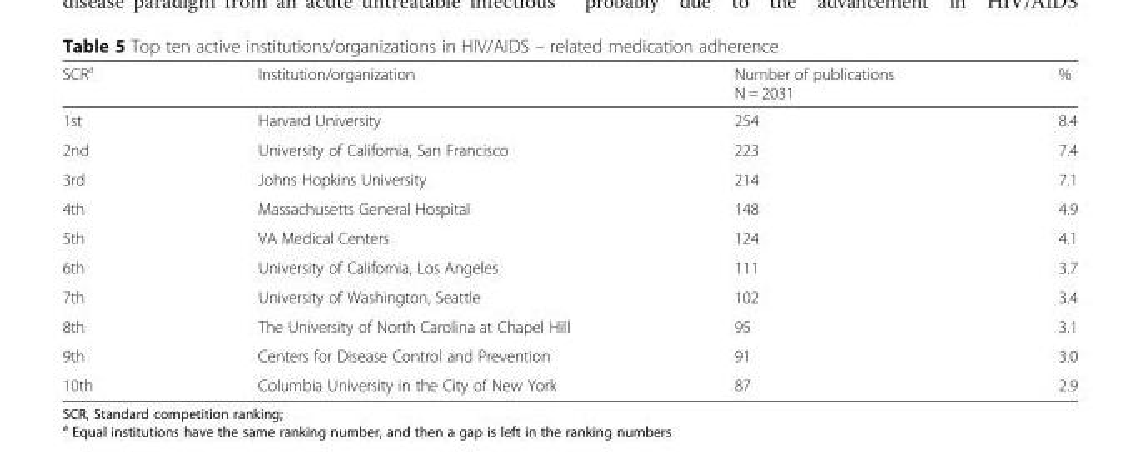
<table><thead><tr><td>SCR<sup>a</sup></td><td>Institution/organization</td><td>Number of publications N = 2031</td><td>%</td></tr></thead><tbody><tr><td>1st</td><td>Harvard University</td><td>254</td><td>8.4</td></tr><tr><td>2nd</td><td>University of California, San Francisco</td><td>223</td><td>7.4</td></tr><tr><td>3rd</td><td>Johns Hopkins University</td><td>214</td><td>7.1</td></tr><tr><td>4th</td><td>Massachusetts General Hospital</td><td>148</td><td>4.9</td></tr><tr><td>5th</td><td>VA Medical Centers</td><td>124</td><td>4.1</td></tr><tr><td>6th</td><td>University of California, Los Angeles</td><td>111</td><td>3.7</td></tr><tr><td>7th</td><td>University of Washington, Seattle</td><td>102</td><td>3.4</td></tr><tr><td>8th</td><td>The University of North Carolina at Chapel Hill</td><td>95</td><td>3.1</td></tr><tr><td>9th</td><td>Centers for Disease Control and Prevention</td><td>91</td><td>3.0</td></tr><tr><td>10th</td><td>Columbia University in the City of New York</td><td>87</td><td>2.9</td></tr></tbody></table>